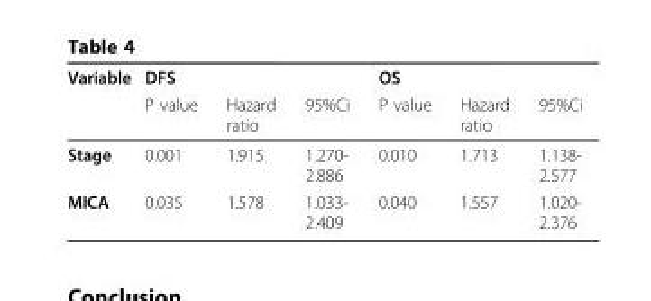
<table><thead><tr><td rowspan="2">Variable</td><td rowspan="2">DFS P value</td><td rowspan="2">Hazard ratio</td><td rowspan="2">95%Ci</td><td rowspan="2">OS P value</td><td rowspan="2">Hazard ratio</td><td rowspan="2">95%Ci</td></tr><tr></tr></thead><tbody><tr><td>Stage</td><td>0.001</td><td>1.915</td><td>1.270- 2.886</td><td>0.010</td><td>1.713</td><td>1.138- 2.577</td></tr><tr><td>MICA</td><td>0.035</td><td>1.578</td><td>1.033- 2.409</td><td>0.040</td><td>1.557</td><td>1.020- 2.376</td></tr></tbody></table>